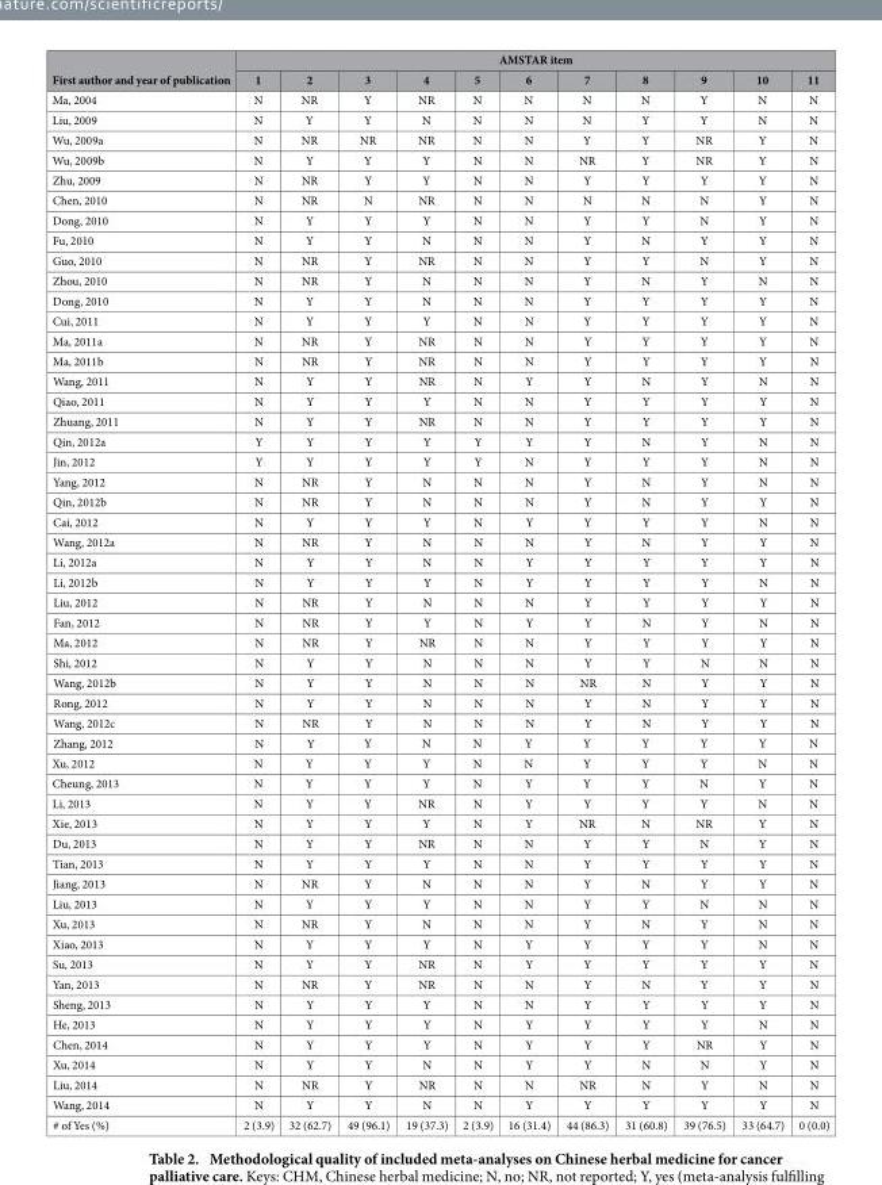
<table><thead><tr><td rowspan="2">First author and year of publication</td><td colspan="11">AMSTAR item</td></tr><tr><td>1</td><td>2</td><td>3</td><td>4</td><td>5</td><td>6</td><td>7</td><td>8</td><td>9</td><td>10</td><td>11</td></tr></thead><tbody><tr><td>Ma, 2004</td><td>N</td><td>NR</td><td>Y</td><td>NR</td><td>N</td><td>N</td><td>N</td><td>N</td><td>Y</td><td>N</td><td>N</td></tr><tr><td>Liu, 2009</td><td>N</td><td>Y</td><td>Y</td><td>N</td><td>N</td><td>N</td><td>N</td><td>Y</td><td>Y</td><td>N</td><td>N</td></tr><tr><td>Wu, 2009a</td><td>N</td><td>NR</td><td>NR</td><td>NR</td><td>N</td><td>N</td><td>Y</td><td>Y</td><td>NR</td><td>Y</td><td>N</td></tr><tr><td>Wu, 2009b</td><td>N</td><td>Y</td><td>Y</td><td>Y</td><td>N</td><td>N</td><td>NR</td><td>Y</td><td>NR</td><td>Y</td><td>N</td></tr><tr><td>Zhu, 2009</td><td>N</td><td>NR</td><td>Y</td><td>Y</td><td>N</td><td>N</td><td>Y</td><td>Y</td><td>Y</td><td>Y</td><td>N</td></tr><tr><td>Chen, 2010</td><td>N</td><td>NR</td><td>N</td><td>NR</td><td>N</td><td>N</td><td>N</td><td>N</td><td>N</td><td>Y</td><td>N</td></tr><tr><td>Dong, 2010</td><td>N</td><td>Y</td><td>Y</td><td>Y</td><td>N</td><td>N</td><td>Y</td><td>Y</td><td>N</td><td>Y</td><td>N</td></tr><tr><td>Fu, 2010</td><td>N</td><td>Y</td><td>Y</td><td>N</td><td>N</td><td>N</td><td>Y</td><td>N</td><td>Y</td><td>Y</td><td>N</td></tr><tr><td>Guo, 2010</td><td>N</td><td>NR</td><td>Y</td><td>NR</td><td>N</td><td>N</td><td>Y</td><td>Y</td><td>N</td><td>Y</td><td>N</td></tr><tr><td>Zhou, 2010</td><td>N</td><td>NR</td><td>Y</td><td>N</td><td>N</td><td>N</td><td>Y</td><td>N</td><td>Y</td><td>N</td><td>N</td></tr><tr><td>Dong, 2010</td><td>N</td><td>Y</td><td>Y</td><td>N</td><td>N</td><td>N</td><td>Y</td><td>Y</td><td>Y</td><td>Y</td><td>N</td></tr><tr><td>Cui, 2011</td><td>N</td><td>Y</td><td>Y</td><td>Y</td><td>N</td><td>N</td><td>Y</td><td>Y</td><td>Y</td><td>Y</td><td>N</td></tr><tr><td>Ma, 2011a</td><td>N</td><td>NR</td><td>Y</td><td>NR</td><td>N</td><td>N</td><td>Y</td><td>Y</td><td>Y</td><td>Y</td><td>N</td></tr><tr><td>Ma, 2011b</td><td>N</td><td>NR</td><td>Y</td><td>NR</td><td>N</td><td>N</td><td>Y</td><td>Y</td><td>Y</td><td>Y</td><td>N</td></tr><tr><td>Wang, 2011</td><td>N</td><td>Y</td><td>Y</td><td>NR</td><td>N</td><td>Y</td><td>Y</td><td>N</td><td>Y</td><td>N</td><td>N</td></tr><tr><td>Qiao, 2011</td><td>N</td><td>Y</td><td>Y</td><td>Y</td><td>N</td><td>N</td><td>Y</td><td>Y</td><td>Y</td><td>Y</td><td>N</td></tr><tr><td>Zhuang, 2011</td><td>N</td><td>Y</td><td>Y</td><td>NR</td><td>N</td><td>N</td><td>Y</td><td>Y</td><td>Y</td><td>Y</td><td>N</td></tr><tr><td>Qin, 2012a</td><td>Y</td><td>Y</td><td>Y</td><td>Y</td><td>Y</td><td>Y</td><td>Y</td><td>N</td><td>Y</td><td>N</td><td>N</td></tr><tr><td>Jin, 2012</td><td>Y</td><td>Y</td><td>Y</td><td>Y</td><td>Y</td><td>N</td><td>Y</td><td>Y</td><td>Y</td><td>N</td><td>N</td></tr><tr><td>Yang, 2012</td><td>N</td><td>NR</td><td>Y</td><td>N</td><td>N</td><td>N</td><td>Y</td><td>N</td><td>Y</td><td>N</td><td>N</td></tr><tr><td>Qin, 2012b</td><td>N</td><td>NR</td><td>Y</td><td>N</td><td>N</td><td>N</td><td>Y</td><td>N</td><td>Y</td><td>Y</td><td>N</td></tr><tr><td>Cai, 2012</td><td>N</td><td>Y</td><td>Y</td><td>Y</td><td>N</td><td>Y</td><td>Y</td><td>Y</td><td>Y</td><td>N</td><td>N</td></tr><tr><td>Wang, 2012a</td><td>N</td><td>NR</td><td>Y</td><td>N</td><td>N</td><td>N</td><td>Y</td><td>N</td><td>Y</td><td>Y</td><td>N</td></tr><tr><td>Li, 2012a</td><td>N</td><td>Y</td><td>Y</td><td>N</td><td>N</td><td>Y</td><td>Y</td><td>Y</td><td>Y</td><td>Y</td><td>N</td></tr><tr><td>Li, 2012b</td><td>N</td><td>Y</td><td>Y</td><td>Y</td><td>N</td><td>Y</td><td>Y</td><td>Y</td><td>Y</td><td>N</td><td>N</td></tr><tr><td>Liu, 2012</td><td>N</td><td>NR</td><td>Y</td><td>N</td><td>N</td><td>N</td><td>Y</td><td>Y</td><td>Y</td><td>Y</td><td>N</td></tr><tr><td>Fan, 2012</td><td>N</td><td>NR</td><td>Y</td><td>Y</td><td>N</td><td>Y</td><td>Y</td><td>N</td><td>Y</td><td>N</td><td>N</td></tr><tr><td>Ma, 2012</td><td>N</td><td>NR</td><td>Y</td><td>NR</td><td>N</td><td>N</td><td>Y</td><td>Y</td><td>Y</td><td>Y</td><td>N</td></tr><tr><td>Shi, 2012</td><td>N</td><td>Y</td><td>Y</td><td>N</td><td>N</td><td>N</td><td>Y</td><td>Y</td><td>N</td><td>N</td><td>N</td></tr><tr><td>Wang, 2012b</td><td>N</td><td>Y</td><td>Y</td><td>N</td><td>N</td><td>N</td><td>NR</td><td>N</td><td>Y</td><td>Y</td><td>N</td></tr><tr><td>Rong, 2012</td><td>N</td><td>Y</td><td>Y</td><td>N</td><td>N</td><td>N</td><td>Y</td><td>N</td><td>Y</td><td>Y</td><td>N</td></tr><tr><td>Wang, 2012c</td><td>N</td><td>NR</td><td>Y</td><td>N</td><td>N</td><td>N</td><td>Y</td><td>N</td><td>Y</td><td>Y</td><td>N</td></tr><tr><td>Zhang, 2012</td><td>N</td><td>Y</td><td>Y</td><td>N</td><td>N</td><td>Y</td><td>Y</td><td>Y</td><td>Y</td><td>Y</td><td>N</td></tr><tr><td>Xu, 2012</td><td>N</td><td>Y</td><td>Y</td><td>Y</td><td>N</td><td>N</td><td>Y</td><td>Y</td><td>Y</td><td>N</td><td>N</td></tr><tr><td>Cheung, 2013</td><td>N</td><td>Y</td><td>Y</td><td>Y</td><td>N</td><td>Y</td><td>Y</td><td>Y</td><td>N</td><td>Y</td><td>N</td></tr><tr><td>Li, 2013</td><td>N</td><td>Y</td><td>Y</td><td>NR</td><td>N</td><td>Y</td><td>Y</td><td>Y</td><td>Y</td><td>N</td><td>N</td></tr><tr><td>Xie, 2013</td><td>N</td><td>Y</td><td>Y</td><td>Y</td><td>N</td><td>Y</td><td>NR</td><td>N</td><td>NR</td><td>Y</td><td>N</td></tr><tr><td>Du, 2013</td><td>N</td><td>Y</td><td>Y</td><td>NR</td><td>N</td><td>N</td><td>Y</td><td>Y</td><td>N</td><td>Y</td><td>N</td></tr><tr><td>Tian, 2013</td><td>N</td><td>Y</td><td>Y</td><td>Y</td><td>N</td><td>N</td><td>Y</td><td>Y</td><td>Y</td><td>Y</td><td>N</td></tr><tr><td>Jiang, 2013</td><td>N</td><td>NR</td><td>Y</td><td>N</td><td>N</td><td>N</td><td>Y</td><td>N</td><td>Y</td><td>Y</td><td>N</td></tr><tr><td>Liu, 2013</td><td>N</td><td>Y</td><td>Y</td><td>Y</td><td>N</td><td>N</td><td>Y</td><td>Y</td><td>N</td><td>N</td><td>N</td></tr><tr><td>Xu, 2013</td><td>N</td><td>NR</td><td>Y</td><td>N</td><td>N</td><td>N</td><td>Y</td><td>N</td><td>Y</td><td>N</td><td>N</td></tr><tr><td>Xiao, 2013</td><td>N</td><td>Y</td><td>Y</td><td>Y</td><td>N</td><td>Y</td><td>Y</td><td>Y</td><td>Y</td><td>N</td><td>N</td></tr><tr><td>Su, 2013</td><td>N</td><td>Y</td><td>Y</td><td>NR</td><td>N</td><td>Y</td><td>Y</td><td>Y</td><td>Y</td><td>Y</td><td>N</td></tr><tr><td>Yan, 2013</td><td>N</td><td>NR</td><td>Y</td><td>NR</td><td>N</td><td>N</td><td>Y</td><td>N</td><td>Y</td><td>Y</td><td>N</td></tr><tr><td>Sheng, 2013</td><td>N</td><td>Y</td><td>Y</td><td>Y</td><td>N</td><td>N</td><td>Y</td><td>Y</td><td>Y</td><td>Y</td><td>N</td></tr><tr><td>He, 2013</td><td>N</td><td>Y</td><td>Y</td><td>Y</td><td>N</td><td>Y</td><td>Y</td><td>Y</td><td>Y</td><td>N</td><td>N</td></tr><tr><td>Chen, 2014</td><td>N</td><td>Y</td><td>Y</td><td>Y</td><td>N</td><td>Y</td><td>Y</td><td>Y</td><td>NR</td><td>Y</td><td>N</td></tr><tr><td>Xu, 2014</td><td>N</td><td>Y</td><td>Y</td><td>N</td><td>N</td><td>Y</td><td>Y</td><td>N</td><td>N</td><td>Y</td><td>N</td></tr><tr><td>Liu, 2014</td><td>N</td><td>NR</td><td>Y</td><td>NR</td><td>N</td><td>N</td><td>NR</td><td>N</td><td>Y</td><td>N</td><td>N</td></tr><tr><td>Wang, 2014</td><td>N</td><td>Y</td><td>Y</td><td>N</td><td>N</td><td>Y</td><td>Y</td><td>Y</td><td>Y</td><td>Y</td><td>N</td></tr><tr><td># of Yes (%)</td><td>2 (3.9)</td><td>32 (62.7)</td><td>49 (96.1)</td><td>19 (37.3)</td><td>2 (3.9)</td><td>16 (31.4)</td><td>44 (86.3)</td><td>31 (60.8)</td><td>39 (76.5)</td><td>33 (64.7)</td><td>0 (0.0)</td></tr></tbody></table>